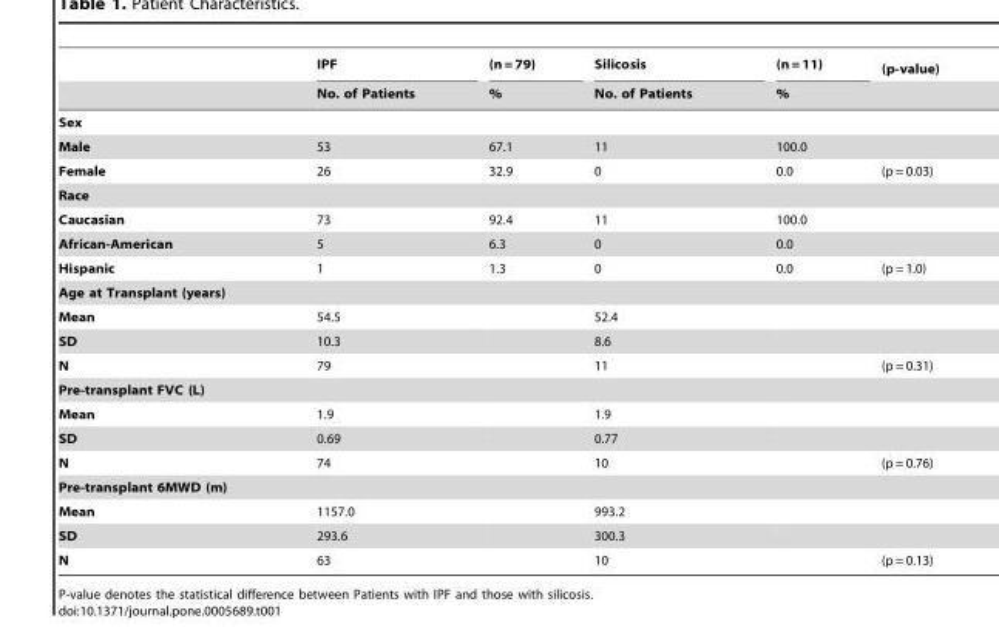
<table><thead><tr><td rowspan="2"></td><td rowspan="2">IPF No. of Patients</td><td rowspan="2">(n = 79) %</td><td rowspan="2">Silicosis No. of Patients</td><td rowspan="2">(n = 11) %</td><td rowspan="2">(p-value)</td></tr><tr></tr></thead><tbody><tr><td colspan="6">Sex</td></tr><tr><td>Male</td><td>53</td><td>67.1</td><td>11</td><td>100.0</td><td></td></tr><tr><td>Female</td><td>26</td><td>32.9</td><td>0</td><td>0.0</td><td>(p = 0.03)</td></tr><tr><td colspan="6">Race</td></tr><tr><td>Caucasian</td><td>73</td><td>92.4</td><td>11</td><td>100.0</td><td></td></tr><tr><td>African-American</td><td>5</td><td>6.3</td><td>0</td><td>0.0</td><td></td></tr><tr><td>Hispanic</td><td>1</td><td>1.3</td><td>0</td><td>0.0</td><td>(p = 1.0)</td></tr><tr><td colspan="6">Age at Transplant (years)</td></tr><tr><td>Mean</td><td>54.5</td><td></td><td>52.4</td><td></td><td></td></tr><tr><td>SD</td><td>10.3</td><td></td><td>8.6</td><td></td><td></td></tr><tr><td>N</td><td>79</td><td></td><td>11</td><td></td><td>(p = 0.31)</td></tr><tr><td colspan="6">Pre-transplant FVC (L)</td></tr><tr><td>Mean</td><td>1.9</td><td></td><td>1.9</td><td></td><td></td></tr><tr><td>SD</td><td>0.69</td><td></td><td>0.77</td><td></td><td></td></tr><tr><td>N</td><td>74</td><td></td><td>10</td><td></td><td>(p = 0.76)</td></tr><tr><td colspan="6">Pre-transplant 6MWD (m)</td></tr><tr><td>Mean</td><td>1157.0</td><td></td><td>993.2</td><td></td><td></td></tr><tr><td>SD</td><td>293.6</td><td></td><td>300.3</td><td></td><td></td></tr><tr><td>N</td><td>63</td><td></td><td>10</td><td></td><td>(p = 0.13)</td></tr></tbody></table>